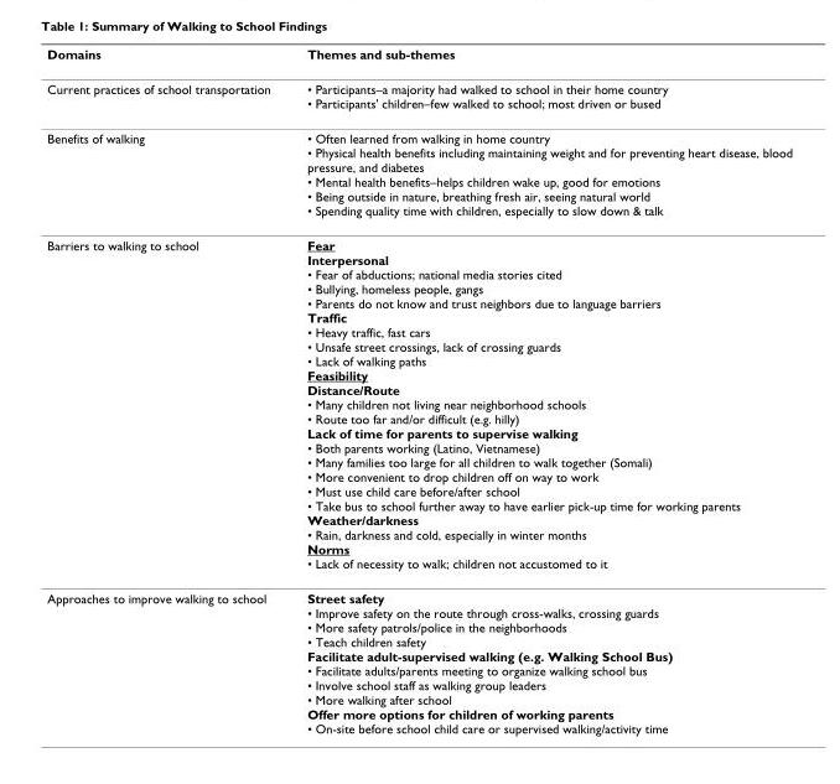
<table><thead><tr><td>Domains</td><td>Themes and sub-themes</td></tr></thead><tbody><tr><td>Current practices of school transportation</td><td>• Participants–a majority had walked to school in their home country • Participants&#x27; children–few walked to school; most driven or bused</td></tr><tr><td>Benefits of walking</td><td>• Often learned from walking in home country • Physical health benefits including maintaining weight and for preventing heart disease, blood pressure, and diabetes • Mental health benefits–helps children wake up, good for emotions • Being outside in nature, breathing fresh air, seeing natural world • Spending quality time with children, especially to slow down &amp; talk</td></tr><tr><td>Barriers to walking to school</td><td>Fear Interpersonal • Fear of abductions; national media stories cited • Bullying, homeless people, gangs • Parents do not know and trust neighbors due to language barriers Traffic • Heavy traffic, fast cars • Unsafe street crossings, lack of crossing guards • Lack of walking paths Feasibility Distance/Route • Many children not living near neighborhood schools • Route too far and/or difficult (e.g. hilly) Lack of time for parents to supervise walking • Both parents working (Latino, Vietnamese) • Many families too large for all children to walk together (Somali) • More convenient to drop children off on way to work • Must use child care before/after school • Take bus to school further away to have earlier pick-up time for working parents Weather/darkness • Rain, darkness and cold, especially in winter months Norms • Lack of necessity to walk; children not accustomed to it</td></tr><tr><td>Approaches to improve walking to school</td><td>Street safety • Improve safety on the route through cross-walks, crossing guards • More safety patrols/police in the neighborhoods • Teach children safety Facilitate adult-supervised walking (e.g. Walking School Bus) • Facilitate adults/parents meeting to organize walking school bus • Involve school staff as walking group leaders • More walking after school Offer more options for children of working parents • On-site before school child care or supervised walking/activity time</td></tr></tbody></table>